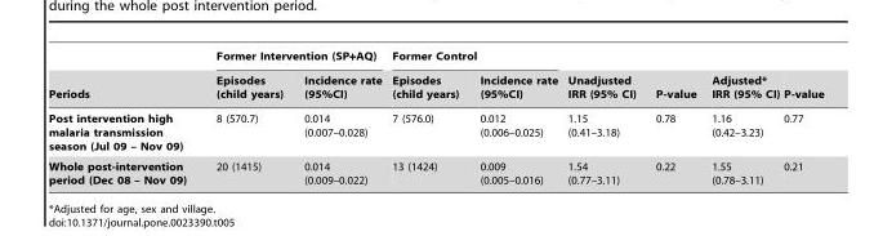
<table><thead><tr><td rowspan="2">Periods</td><td colspan="2">Former Intervention (SP+AQ)</td><td colspan="2">Former Control</td><td rowspan="2">Unadjusted IRR (95% CI)</td><td rowspan="2">P-value</td><td rowspan="2">Adjusted* IRR (95% CI)</td><td rowspan="2">P-value</td></tr><tr><td>Episodes (child years)</td><td>Incidence rate (95%CI)</td><td>Episodes (child years)</td><td>Incidence rate (95%CI)</td></tr></thead><tbody><tr><td>Post intervention high malaria transmission season (Jul 09 – Nov 09)</td><td>8 (570.7)</td><td>0.014 (0.007–0.028)</td><td>7 (576.0)</td><td>0.012 (0.006–0.025)</td><td>1.15 (0.41–3.18)</td><td>0.78</td><td>1.16 (0.42–3.23)</td><td>0.77</td></tr><tr><td>Whole post-intervention period (Dec 08 – Nov 09)</td><td>20 (1415)</td><td>0.014 (0.009–0.022)</td><td>13 (1424)</td><td>0.009 (0.005–0.016)</td><td>1.54 (0.77–3.11)</td><td>0.22</td><td>1.55 (0.78–3.11)</td><td>0.21</td></tr></tbody></table>